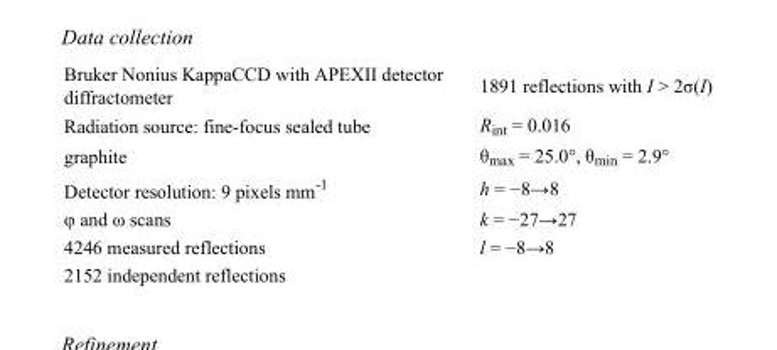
<table><tbody><tr><td>Bruker Nonius KappaCCD with APEXII detector diffractometer</td><td>1891 reflections with I &gt; 2σ(I)</td></tr><tr><td>Radiation source: fine-focus sealed tube</td><td>R<sub>int</sub> = 0.016</td></tr><tr><td>graphite</td><td>θ<sub>max</sub> = 25.0°, θ<sub>min</sub> = 2.9°</td></tr><tr><td>Detector resolution: 9 pixels mm<sup>-1</sup></td><td>h = −8→8</td></tr><tr><td>φ and ω scans</td><td>k = −27→27</td></tr><tr><td>4246 measured reflections</td><td>l = −8→8</td></tr><tr><td>2152 independent reflections</td><td></td></tr></tbody></table>